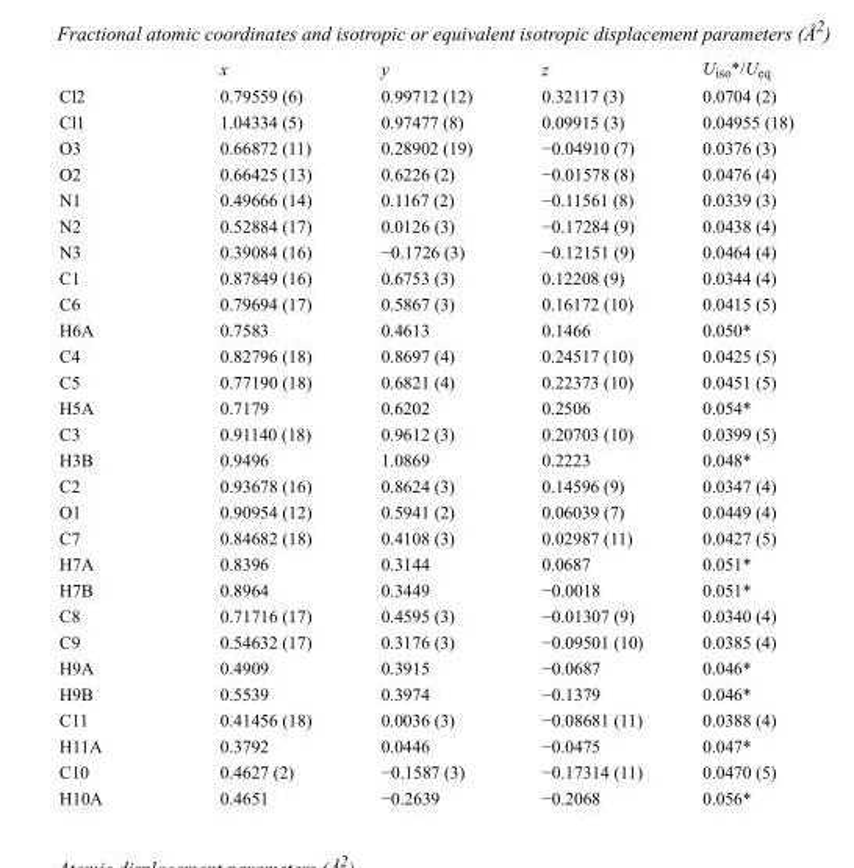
<table><thead><tr><td></td><td>x</td><td>y</td><td>z</td><td>U<sub>iso</sub>*/U<sub>eq</sub></td></tr></thead><tbody><tr><td>Cl2</td><td>0.79559 (6)</td><td>0.99712 (12)</td><td>0.32117 (3)</td><td>0.0704 (2)</td></tr><tr><td>Cl1</td><td>1.04334 (5)</td><td>0.97477 (8)</td><td>0.09915 (3)</td><td>0.04955 (18)</td></tr><tr><td>O3</td><td>0.66872 (11)</td><td>0.28902 (19)</td><td>−0.04910 (7)</td><td>0.0376 (3)</td></tr><tr><td>O2</td><td>0.66425 (13)</td><td>0.6226 (2)</td><td>−0.01578 (8)</td><td>0.0476 (4)</td></tr><tr><td>N1</td><td>0.49666 (14)</td><td>0.1167 (2)</td><td>−0.11561 (8)</td><td>0.0339 (3)</td></tr><tr><td>N2</td><td>0.52884 (17)</td><td>0.0126 (3)</td><td>−0.17284 (9)</td><td>0.0438 (4)</td></tr><tr><td>N3</td><td>0.39084 (16)</td><td>−0.1726 (3)</td><td>−0.12151 (9)</td><td>0.0464 (4)</td></tr><tr><td>C1</td><td>0.87849 (16)</td><td>0.6753 (3)</td><td>0.12208 (9)</td><td>0.0344 (4)</td></tr><tr><td>C6</td><td>0.79694 (17)</td><td>0.5867 (3)</td><td>0.16172 (10)</td><td>0.0415 (5)</td></tr><tr><td>H6A</td><td>0.7583</td><td>0.4613</td><td>0.1466</td><td>0.050*</td></tr><tr><td>C4</td><td>0.82796 (18)</td><td>0.8697 (4)</td><td>0.24517 (10)</td><td>0.0425 (5)</td></tr><tr><td>C5</td><td>0.77190 (18)</td><td>0.6821 (4)</td><td>0.22373 (10)</td><td>0.0451 (5)</td></tr><tr><td>H5A</td><td>0.7179</td><td>0.6202</td><td>0.2506</td><td>0.054*</td></tr><tr><td>C3</td><td>0.91140 (18)</td><td>0.9612 (3)</td><td>0.20703 (10)</td><td>0.0399 (5)</td></tr><tr><td>H3B</td><td>0.9496</td><td>1.0869</td><td>0.2223</td><td>0.048*</td></tr><tr><td>C2</td><td>0.93678 (16)</td><td>0.8624 (3)</td><td>0.14596 (9)</td><td>0.0347 (4)</td></tr><tr><td>O1</td><td>0.90954 (12)</td><td>0.5941 (2)</td><td>0.06039 (7)</td><td>0.0449 (4)</td></tr><tr><td>C7</td><td>0.84682 (18)</td><td>0.4108 (3)</td><td>0.02987 (11)</td><td>0.0427 (5)</td></tr><tr><td>H7A</td><td>0.8396</td><td>0.3144</td><td>0.0687</td><td>0.051*</td></tr><tr><td>H7B</td><td>0.8964</td><td>0.3449</td><td>−0.0018</td><td>0.051*</td></tr><tr><td>C8</td><td>0.71716 (17)</td><td>0.4595 (3)</td><td>−0.01307 (9)</td><td>0.0340 (4)</td></tr><tr><td>C9</td><td>0.54632 (17)</td><td>0.3176 (3)</td><td>−0.09501 (10)</td><td>0.0385 (4)</td></tr><tr><td>H9A</td><td>0.4909</td><td>0.3915</td><td>−0.0687</td><td>0.046*</td></tr><tr><td>H9B</td><td>0.5539</td><td>0.3974</td><td>−0.1379</td><td>0.046*</td></tr><tr><td>C11</td><td>0.41456 (18)</td><td>0.0036 (3)</td><td>−0.08681 (11)</td><td>0.0388 (4)</td></tr><tr><td>H11A</td><td>0.3792</td><td>0.0446</td><td>−0.0475</td><td>0.047*</td></tr><tr><td>C10</td><td>0.4627 (2)</td><td>−0.1587 (3)</td><td>−0.17314 (11)</td><td>0.0470 (5)</td></tr><tr><td>H10A</td><td>0.4651</td><td>−0.2639</td><td>−0.2068</td><td>0.056*</td></tr></tbody></table>